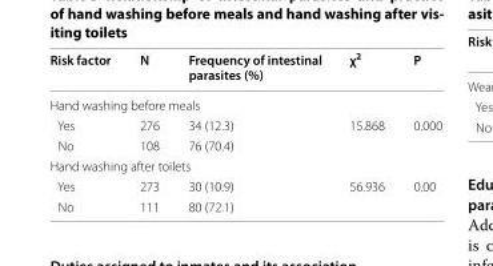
<table><thead><tr><td>Risk factor</td><td>N</td><td>Frequency of intestinal parasites (%)</td><td>χ<sup>2</sup></td><td>P</td></tr></thead><tbody><tr><td colspan="5">Hand washing before meals</td></tr><tr><td>Yes</td><td>276</td><td>34 (12.3)</td><td>15.868</td><td>0.000</td></tr><tr><td>No</td><td>108</td><td>76 (70.4)</td><td></td><td></td></tr><tr><td colspan="5">Hand washing after toilets</td></tr><tr><td>Yes</td><td>273</td><td>30 (10.9)</td><td>56.936</td><td>0.00</td></tr><tr><td>No</td><td>111</td><td>80 (72.1)</td><td></td><td></td></tr></tbody></table>